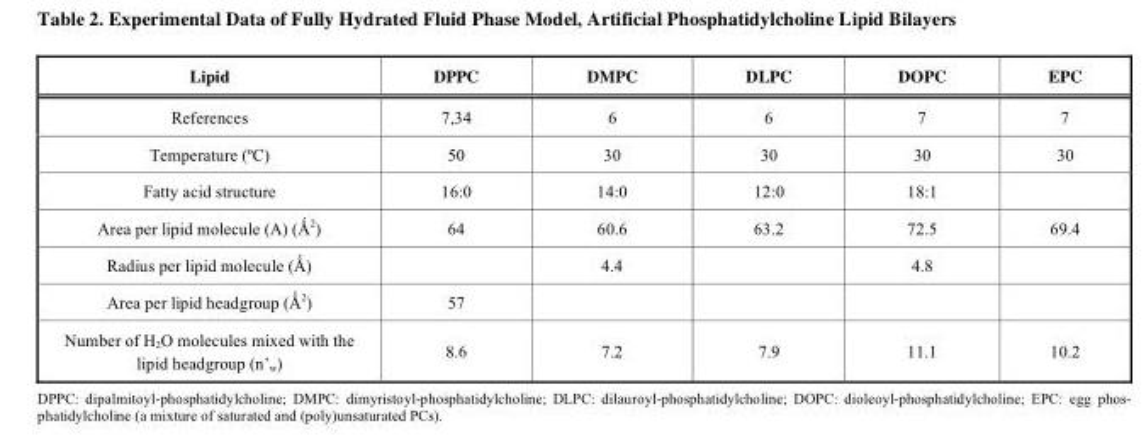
<table><thead><tr><td>Lipid</td><td>DPPC</td><td>DMPC</td><td>DLPC</td><td>DOPC</td><td>EPC</td></tr></thead><tbody><tr><td>References</td><td>7,34</td><td>6</td><td>6</td><td>7</td><td>7</td></tr><tr><td>Temperature (ºC)</td><td>50</td><td>30</td><td>30</td><td>30</td><td>30</td></tr><tr><td>Fatty acid structure</td><td>16:0</td><td>14:0</td><td>12:0</td><td>18:1</td><td></td></tr><tr><td>Area per lipid molecule (A) (Ǻ<sup>2</sup>)</td><td>64</td><td>60.6</td><td>63.2</td><td>72.5</td><td>69.4</td></tr><tr><td>Radius per lipid molecule (Ǻ)</td><td></td><td>4.4</td><td></td><td>4.8</td><td></td></tr><tr><td>Area per lipid headgroup (Ǻ<sup>2</sup>)</td><td>57</td><td></td><td></td><td></td><td></td></tr><tr><td>Number of H2O molecules mixed with the lipid headgroup (n’<sub>w</sub>)</td><td>8.6</td><td>7.2</td><td>7.9</td><td>11.1</td><td>10.2</td></tr></tbody></table>